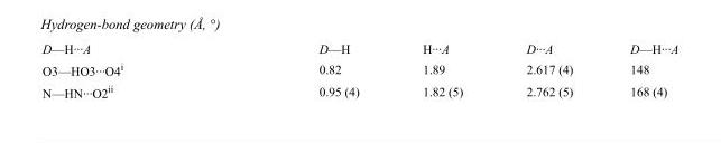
<table><tbody><tr><td>D—H···A</td><td>D—H</td><td>H···A</td><td>D···A</td><td>D—H···A</td></tr><tr><td>O3—HO3···O4<sup>i</sup></td><td>0.82</td><td>1.89</td><td>2.617 (4)</td><td>148</td></tr><tr><td>N—HN···O2<sup>ii</sup></td><td>0.95 (4)</td><td>1.82 (5)</td><td>2.762 (5)</td><td>168 (4)</td></tr></tbody></table>